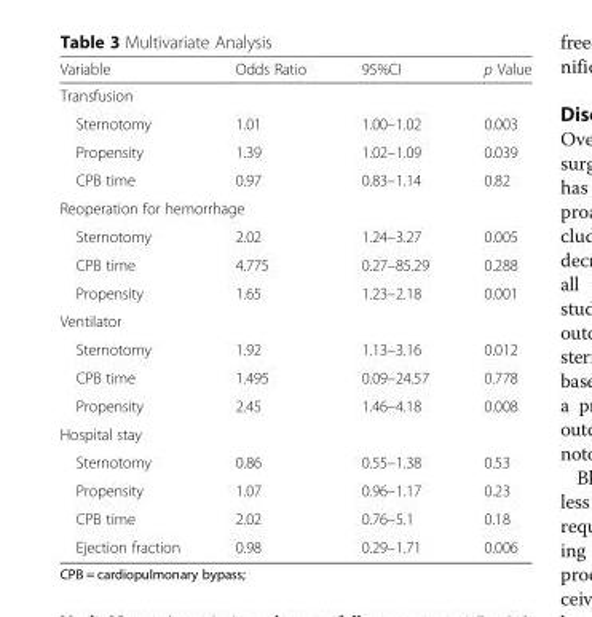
<table><thead><tr><td>Variable</td><td>Odds Ratio</td><td>95%CI</td><td>p Value</td></tr></thead><tbody><tr><td colspan="4">Transfusion</td></tr><tr><td>Sternotomy</td><td>1.01</td><td>1.00–1.02</td><td>0.003</td></tr><tr><td>Propensity</td><td>1.39</td><td>1.02–1.09</td><td>0.039</td></tr><tr><td>CPB time</td><td>0.97</td><td>0.83–1.14</td><td>0.82</td></tr><tr><td colspan="4">Reoperation for hemorrhage</td></tr><tr><td>Sternotomy</td><td>2.02</td><td>1.24–3.27</td><td>0.005</td></tr><tr><td>CPB time</td><td>4.775</td><td>0.27–85.29</td><td>0.288</td></tr><tr><td>Propensity</td><td>1.65</td><td>1.23–2.18</td><td>0.001</td></tr><tr><td colspan="4">Ventilator</td></tr><tr><td>Sternotomy</td><td>1.92</td><td>1.13–3.16</td><td>0.012</td></tr><tr><td>CPB time</td><td>1.495</td><td>0.09–24.57</td><td>0.778</td></tr><tr><td>Propensity</td><td>2.45</td><td>1.46–4.18</td><td>0.008</td></tr><tr><td colspan="4">Hospital stay</td></tr><tr><td>Sternotomy</td><td>0.86</td><td>0.55–1.38</td><td>0.53</td></tr><tr><td>Propensity</td><td>1.07</td><td>0.96–1.17</td><td>0.23</td></tr><tr><td>CPB time</td><td>2.02</td><td>0.76–5.1</td><td>0.18</td></tr><tr><td>Ejection fraction</td><td>0.98</td><td>0.29–1.71</td><td>0.006</td></tr></tbody></table>